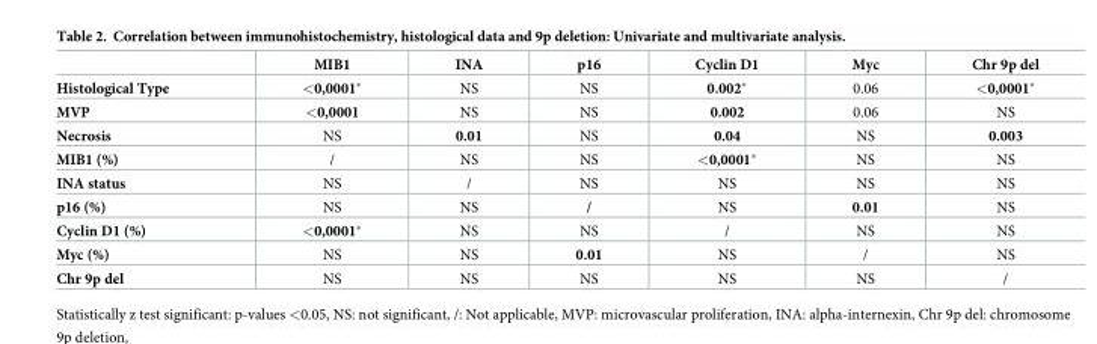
<table><thead><tr><td></td><td>MIB1</td><td>INA</td><td>p16</td><td>Cyclin D1</td><td>Myc</td><td>Chr 9p del</td></tr></thead><tbody><tr><td>Histological Type</td><td>&lt;0,0001*</td><td>NS</td><td>NS</td><td>0.002*</td><td>0.06</td><td>&lt;0,0001*</td></tr><tr><td>MVP</td><td>&lt;0,0001</td><td>NS</td><td>NS</td><td>0.002</td><td>0.06</td><td>NS</td></tr><tr><td>Necrosis</td><td>NS</td><td>0.01</td><td>NS</td><td>0.04</td><td>NS</td><td>0.003</td></tr><tr><td>MIB1 (%)</td><td>/</td><td>NS</td><td>NS</td><td>&lt;0,0001*</td><td>NS</td><td>NS</td></tr><tr><td>INA status</td><td>NS</td><td>/</td><td>NS</td><td>NS</td><td>NS</td><td>NS</td></tr><tr><td>p16 (%)</td><td>NS</td><td>NS</td><td>/</td><td>NS</td><td>0.01</td><td>NS</td></tr><tr><td>Cyclin D1 (%)</td><td>&lt;0,0001*</td><td>NS</td><td>NS</td><td>/</td><td>NS</td><td>NS</td></tr><tr><td>Myc (%)</td><td>NS</td><td>NS</td><td>0.01</td><td>NS</td><td>/</td><td>NS</td></tr><tr><td>Chr 9p del</td><td>NS</td><td>NS</td><td>NS</td><td>NS</td><td>NS</td><td>/</td></tr></tbody></table>